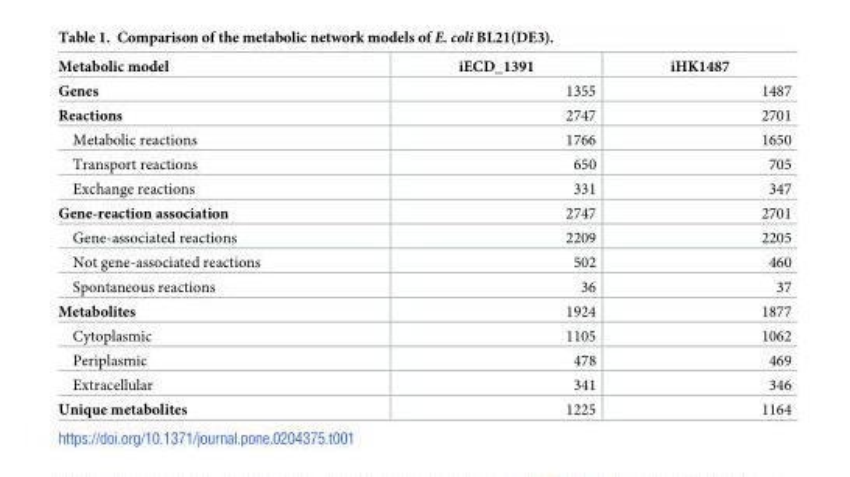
<table><thead><tr><td>Metabolic model</td><td>iECD_1391</td><td>iHK1487</td></tr></thead><tbody><tr><td>Genes</td><td>1355</td><td>1487</td></tr><tr><td>Reactions</td><td>2747</td><td>2701</td></tr><tr><td>Metabolic reactions</td><td>1766</td><td>1650</td></tr><tr><td>Transport reactions</td><td>650</td><td>705</td></tr><tr><td>Exchange reactions</td><td>331</td><td>347</td></tr><tr><td>Gene-reaction association</td><td>2747</td><td>2701</td></tr><tr><td>Gene-associated reactions</td><td>2209</td><td>2205</td></tr><tr><td>Not gene-associated reactions</td><td>502</td><td>460</td></tr><tr><td>Spontaneous reactions</td><td>36</td><td>37</td></tr><tr><td>Metabolites</td><td>1924</td><td>1877</td></tr><tr><td>Cytoplasmic</td><td>1105</td><td>1062</td></tr><tr><td>Periplasmic</td><td>478</td><td>469</td></tr><tr><td>Extracellular</td><td>341</td><td>346</td></tr><tr><td>Unique metabolites</td><td>1225</td><td>1164</td></tr></tbody></table>